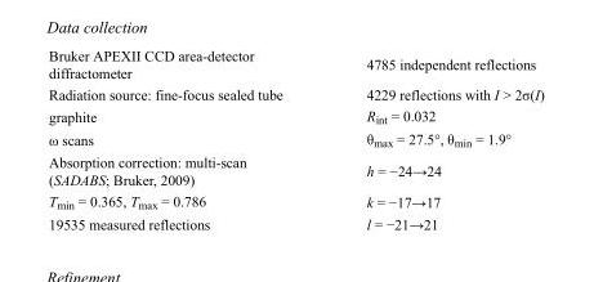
<table><tbody><tr><td>Bruker APEXII CCD area-detector diffractometer</td><td>4785 independent reflections</td></tr><tr><td>Radiation source: fine-focus sealed tube</td><td>4229 reflections with I &gt; 2σ(I)</td></tr><tr><td>graphite</td><td>R<sub>int</sub> = 0.032</td></tr><tr><td>ω scans</td><td>θ<sub>max</sub> = 27.5°, θ<sub>min</sub> = 1.9°</td></tr><tr><td>Absorption correction: multi-scan (SADABS; Bruker, 2009)</td><td>h = −24→24</td></tr><tr><td>T<sub>min</sub> = 0.365, T<sub>max</sub> = 0.786</td><td>k = −17→17</td></tr><tr><td>19535 measured reflections</td><td>l = −21→21</td></tr></tbody></table>